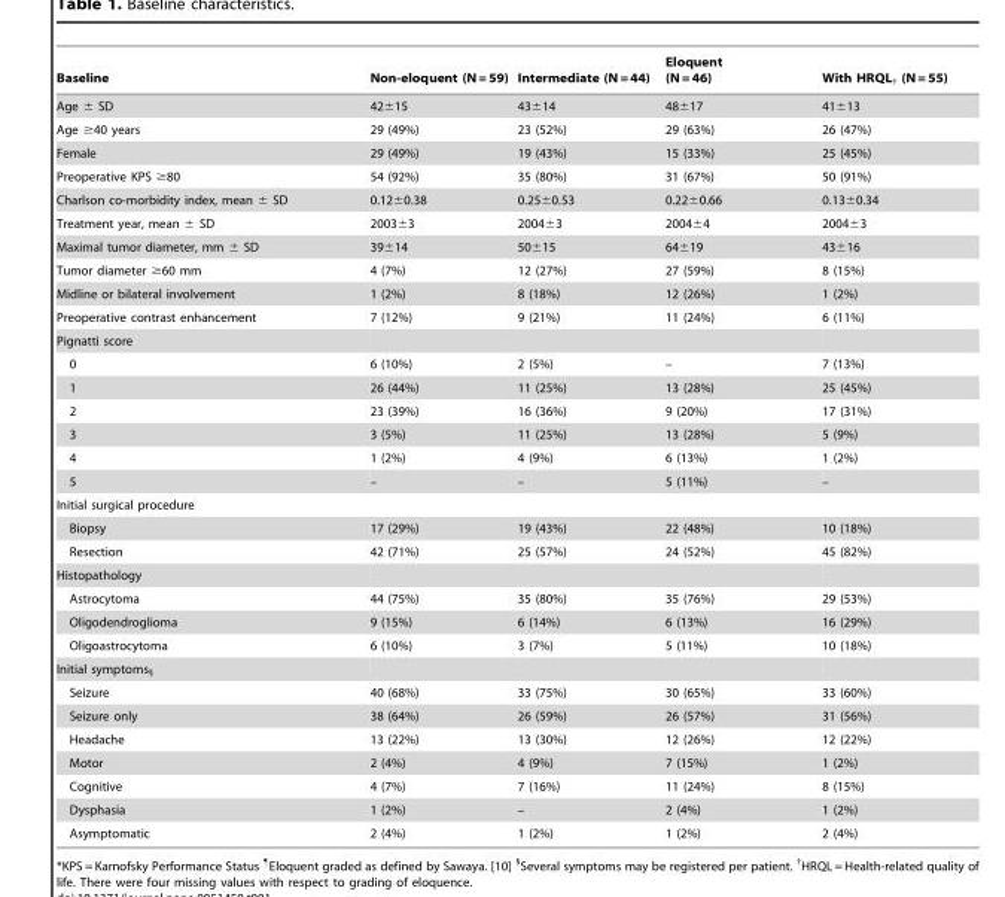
<table><thead><tr><td>Baseline</td><td>Non-eloquent (N = 59)</td><td>Intermediate (N = 44)</td><td>Eloquent (N = 46)</td><td>With HRQL<sub>†</sub> (N = 55)</td></tr></thead><tbody><tr><td>Age ± SD</td><td>42±15</td><td>43±14</td><td>48±17</td><td>41±13</td></tr><tr><td>Age ≥40 years</td><td>29 (49%)</td><td>23 (52%)</td><td>29 (63%)</td><td>26 (47%)</td></tr><tr><td>Female</td><td>29 (49%)</td><td>19 (43%)</td><td>15 (33%)</td><td>25 (45%)</td></tr><tr><td>Preoperative KPS ≥80</td><td>54 (92%)</td><td>35 (80%)</td><td>31 (67%)</td><td>50 (91%)</td></tr><tr><td>Charlson co-morbidity index, mean ± SD</td><td>0.12±0.38</td><td>0.25±0.53</td><td>0.22±0.66</td><td>0.13±0.34</td></tr><tr><td>Treatment year, mean ± SD</td><td>2003±3</td><td>2004±3</td><td>2004±4</td><td>2004±3</td></tr><tr><td>Maximal tumor diameter, mm ± SD</td><td>39±14</td><td>50±15</td><td>64±19</td><td>43±16</td></tr><tr><td>Tumor diameter ≥60 mm</td><td>4 (7%)</td><td>12 (27%)</td><td>27 (59%)</td><td>8 (15%)</td></tr><tr><td>Midline or bilateral involvement</td><td>1 (2%)</td><td>8 (18%)</td><td>12 (26%)</td><td>1 (2%)</td></tr><tr><td>Preoperative contrast enhancement</td><td>7 (12%)</td><td>9 (21%)</td><td>11 (24%)</td><td>6 (11%)</td></tr><tr><td colspan="5">Pignatti score</td></tr><tr><td>0</td><td>6 (10%)</td><td>2 (5%)</td><td>–</td><td>7 (13%)</td></tr><tr><td>1</td><td>26 (44%)</td><td>11 (25%)</td><td>13 (28%)</td><td>25 (45%)</td></tr><tr><td>2</td><td>23 (39%)</td><td>16 (36%)</td><td>9 (20%)</td><td>17 (31%)</td></tr><tr><td>3</td><td>3 (5%)</td><td>11 (25%)</td><td>13 (28%)</td><td>5 (9%)</td></tr><tr><td>4</td><td>1 (2%)</td><td>4 (9%)</td><td>6 (13%)</td><td>1 (2%)</td></tr><tr><td>5</td><td>–</td><td>–</td><td>5 (11%)</td><td>–</td></tr><tr><td colspan="5">Initial surgical procedure</td></tr><tr><td>Biopsy</td><td>17 (29%)</td><td>19 (43%)</td><td>22 (48%)</td><td>10 (18%)</td></tr><tr><td>Resection</td><td>42 (71%)</td><td>25 (57%)</td><td>24 (52%)</td><td>45 (82%)</td></tr><tr><td colspan="5">Histopathology</td></tr><tr><td>Astrocytoma</td><td>44 (75%)</td><td>35 (80%)</td><td>35 (76%)</td><td>29 (53%)</td></tr><tr><td>Oligodendroglioma</td><td>9 (15%)</td><td>6 (14%)</td><td>6 (13%)</td><td>16 (29%)</td></tr><tr><td>Oligoastrocytoma</td><td>6 (10%)</td><td>3 (7%)</td><td>5 (11%)</td><td>10 (18%)</td></tr><tr><td colspan="5">Initial symptoms<sub>§</sub></td></tr><tr><td>Seizure</td><td>40 (68%)</td><td>33 (75%)</td><td>30 (65%)</td><td>33 (60%)</td></tr><tr><td>Seizure only</td><td>38 (64%)</td><td>26 (59%)</td><td>26 (57%)</td><td>31 (56%)</td></tr><tr><td>Headache</td><td>13 (22%)</td><td>13 (30%)</td><td>12 (26%)</td><td>12 (22%)</td></tr><tr><td>Motor</td><td>2 (4%)</td><td>4 (9%)</td><td>7 (15%)</td><td>1 (2%)</td></tr><tr><td>Cognitive</td><td>4 (7%)</td><td>7 (16%)</td><td>11 (24%)</td><td>8 (15%)</td></tr><tr><td>Dysphasia</td><td>1 (2%)</td><td>–</td><td>2 (4%)</td><td>1 (2%)</td></tr><tr><td>Asymptomatic</td><td>2 (4%)</td><td>1 (2%)</td><td>1 (2%)</td><td>2 (4%)</td></tr></tbody></table>